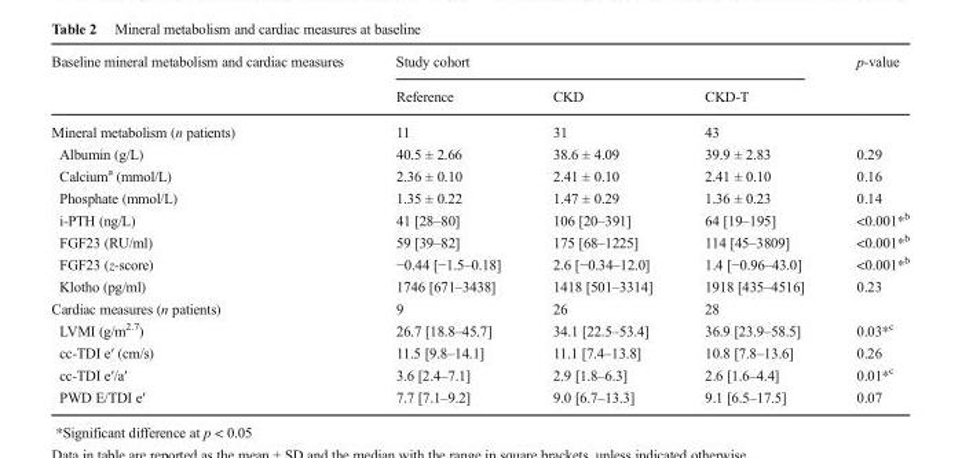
<table><thead><tr><td rowspan="2">Baseline mineral metabolism and cardiac measures</td><td colspan="3">Study cohort</td><td rowspan="2">p-value</td></tr><tr><td>Reference</td><td>CKD</td><td>CKD-T</td></tr></thead><tbody><tr><td>Mineral metabolism (n patients)</td><td>11</td><td>31</td><td>43</td><td></td></tr><tr><td>Albumin (g/L)</td><td>40.5 ± 2.66</td><td>38.6 ± 4.09</td><td>39.9 ± 2.83</td><td>0.29</td></tr><tr><td>Calcium<sup>a</sup> (mmol/L)</td><td>2.36 ± 0.10</td><td>2.41 ± 0.10</td><td>2.41 ± 0.10</td><td>0.16</td></tr><tr><td>Phosphate (mmol/L)</td><td>1.35 ± 0.22</td><td>1.47 ± 0.29</td><td>1.36 ± 0.23</td><td>0.14</td></tr><tr><td>i-PTH (ng/L)</td><td>41 [28–80]</td><td>106 [20–391]</td><td>64 [19–195]</td><td>&lt;0.001*<sup>b</sup></td></tr><tr><td>FGF23 (RU/ml)</td><td>59 [39–82]</td><td>175 [68–1225]</td><td>114 [45–3809]</td><td>&lt;0.001*<sup>b</sup></td></tr><tr><td>FGF23 (z-score)</td><td>−0.44 [−1.5–0.18]</td><td>2.6 [−0.34–12.0]</td><td>1.4 [−0.96–43.0]</td><td>&lt;0.001*<sup>b</sup></td></tr><tr><td>Klotho (pg/ml)</td><td>1746 [671–3438]</td><td>1418 [501–3314]</td><td>1918 [435–4516]</td><td>0.23</td></tr><tr><td>Cardiac measures (n patients)</td><td>9</td><td>26</td><td>28</td><td></td></tr><tr><td>LVMI (g/m<sup>2.7</sup>)</td><td>26.7 [18.8–45.7]</td><td>34.1 [22.5–53.4]</td><td>36.9 [23.9–58.5]</td><td>0.03*<sup>c</sup></td></tr><tr><td>cc-TDI e′ (cm/s)</td><td>11.5 [9.8–14.1]</td><td>11.1 [7.4–13.8]</td><td>10.8 [7.8–13.6]</td><td>0.26</td></tr><tr><td>cc-TDI e′/a′</td><td>3.6 [2.4–7.1]</td><td>2.9 [1.8–6.3]</td><td>2.6 [1.6–4.4]</td><td>0.01*<sup>c</sup></td></tr><tr><td>PWD E/TDI e′</td><td>7.7 [7.1–9.2]</td><td>9.0 [6.7–13.3]</td><td>9.1 [6.5–17.5]</td><td>0.07</td></tr></tbody></table>